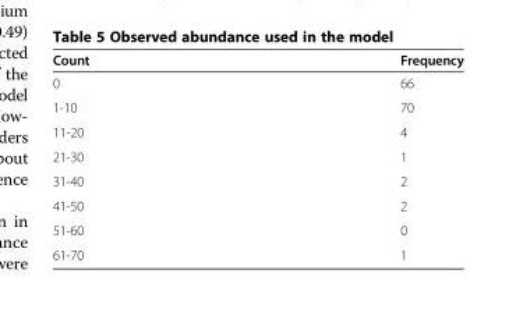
<table><thead><tr><td>Count</td><td>Frequency</td></tr></thead><tbody><tr><td>0</td><td>66</td></tr><tr><td>1-10</td><td>70</td></tr><tr><td>11-20</td><td>4</td></tr><tr><td>21-30</td><td>1</td></tr><tr><td>31-40</td><td>2</td></tr><tr><td>41-50</td><td>2</td></tr><tr><td>51-60</td><td>0</td></tr><tr><td>61-70</td><td>1</td></tr></tbody></table>